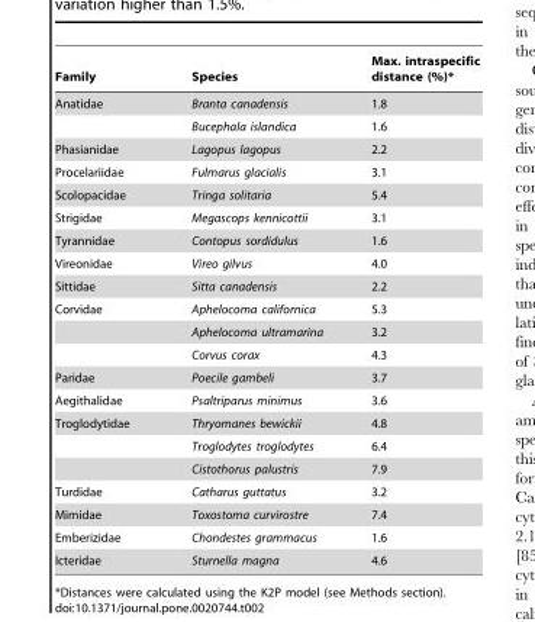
<table><thead><tr><td>Family</td><td>Species</td><td>Max. intraspecific distance (%)*</td></tr></thead><tbody><tr><td rowspan="2">Anatidae</td><td>Branta canadensis</td><td>1.8</td></tr><tr><td>Bucephala islandica</td><td>1.6</td></tr><tr><td>Phasianidae</td><td>Lagopus lagopus</td><td>2.2</td></tr><tr><td>Procelariidae</td><td>Fulmarus glacialis</td><td>3.1</td></tr><tr><td>Scolopacidae</td><td>Tringa solitaria</td><td>5.4</td></tr><tr><td>Strigidae</td><td>Megascops kennicottii</td><td>3.1</td></tr><tr><td>Tyrannidae</td><td>Contopus sordidulus</td><td>1.6</td></tr><tr><td>Vireonidae</td><td>Vireo gilvus</td><td>4.0</td></tr><tr><td>Sittidae</td><td>Sitta canadensis</td><td>2.2</td></tr><tr><td rowspan="3">Corvidae</td><td>Aphelocoma californica</td><td>5.3</td></tr><tr><td>Aphelocoma ultramarina</td><td>3.2</td></tr><tr><td>Corvus corax</td><td>4.3</td></tr><tr><td>Paridae</td><td>Poecile gambeli</td><td>3.7</td></tr><tr><td>Aegithalidae</td><td>Psaltriparus minimus</td><td>3.6</td></tr><tr><td rowspan="3">Troglodytidae</td><td>Thryomanes bewickii</td><td>4.8</td></tr><tr><td>Troglodytes troglodytes</td><td>6.4</td></tr><tr><td>Cistothorus palustris</td><td>7.9</td></tr><tr><td>Turdidae</td><td>Catharus guttatus</td><td>3.2</td></tr><tr><td>Mimidae</td><td>Toxostoma curvirostre</td><td>7.4</td></tr><tr><td>Emberizidae</td><td>Chondestes grammacus</td><td>1.6</td></tr><tr><td>Icteridae</td><td>Sturnella magna</td><td>4.6</td></tr></tbody></table>